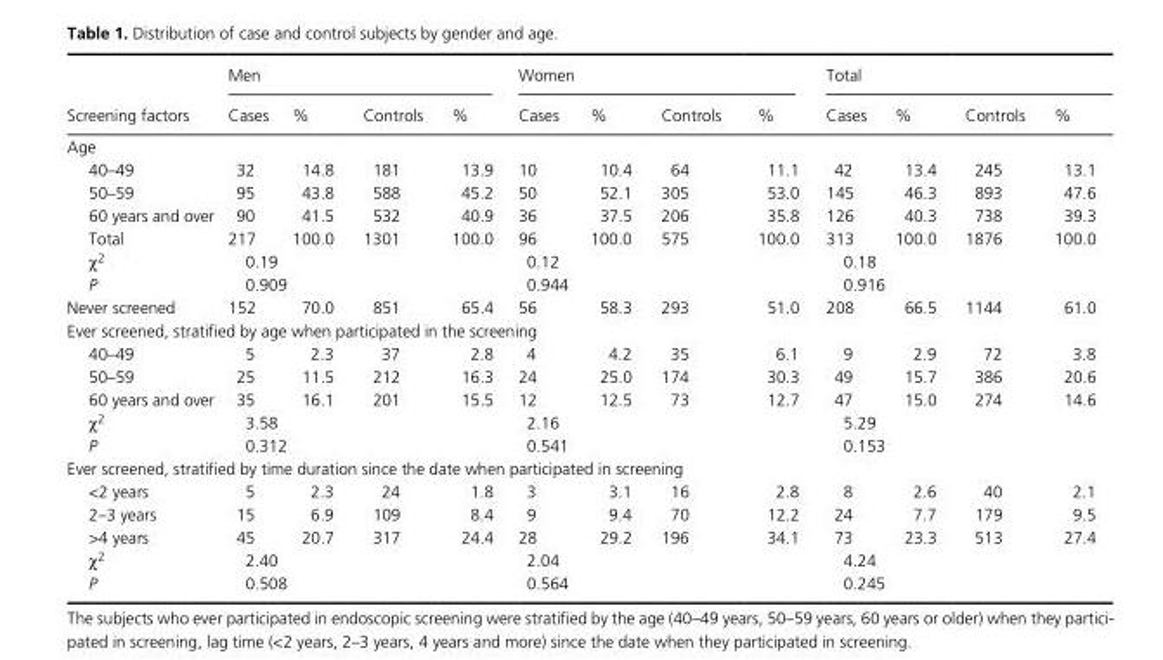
<table><thead><tr><td rowspan="2">Screening factors</td><td colspan="4">Men</td><td colspan="4">Women</td><td colspan="4">Total</td></tr><tr><td>Cases</td><td>%</td><td>Controls</td><td>%</td><td>Cases</td><td>%</td><td>Controls</td><td>%</td><td>Cases</td><td>%</td><td>Controls</td><td>%</td></tr></thead><tbody><tr><td colspan="13">Age</td></tr><tr><td>40–49</td><td>32</td><td>14.8</td><td>181</td><td>13.9</td><td>10</td><td>10.4</td><td>64</td><td>11.1</td><td>42</td><td>13.4</td><td>245</td><td>13.1</td></tr><tr><td>50–59</td><td>95</td><td>43.8</td><td>588</td><td>45.2</td><td>50</td><td>52.1</td><td>305</td><td>53.0</td><td>145</td><td>46.3</td><td>893</td><td>47.6</td></tr><tr><td>60 years and over</td><td>90</td><td>41.5</td><td>532</td><td>40.9</td><td>36</td><td>37.5</td><td>206</td><td>35.8</td><td>126</td><td>40.3</td><td>738</td><td>39.3</td></tr><tr><td>Total</td><td>217</td><td>100.0</td><td>1301</td><td>100.0</td><td>96</td><td>100.0</td><td>575</td><td>100.0</td><td>313</td><td>100.0</td><td>1876</td><td>100.0</td></tr><tr><td>χ<sup>2</sup></td><td colspan="4">0.19</td><td colspan="4">0.12</td><td colspan="4">0.18</td></tr><tr><td>P</td><td colspan="4">0.909</td><td colspan="4">0.944</td><td colspan="4">0.916</td></tr><tr><td>Never screened</td><td>152</td><td>70.0</td><td>851</td><td>65.4</td><td>56</td><td>58.3</td><td>293</td><td>51.0</td><td>208</td><td>66.5</td><td>1144</td><td>61.0</td></tr><tr><td colspan="13">Ever screened, stratified by age when participated in the screening</td></tr><tr><td>40–49</td><td>5</td><td>2.3</td><td>37</td><td>2.8</td><td>4</td><td>4.2</td><td>35</td><td>6.1</td><td>9</td><td>2.9</td><td>72</td><td>3.8</td></tr><tr><td>50–59</td><td>25</td><td>11.5</td><td>212</td><td>16.3</td><td>24</td><td>25.0</td><td>174</td><td>30.3</td><td>49</td><td>15.7</td><td>386</td><td>20.6</td></tr><tr><td>60 years and over</td><td>35</td><td>16.1</td><td>201</td><td>15.5</td><td>12</td><td>12.5</td><td>73</td><td>12.7</td><td>47</td><td>15.0</td><td>274</td><td>14.6</td></tr><tr><td>χ<sup>2</sup></td><td colspan="4">3.58</td><td colspan="4">2.16</td><td colspan="4">5.29</td></tr><tr><td>P</td><td colspan="4">0.312</td><td colspan="4">0.541</td><td colspan="4">0.153</td></tr><tr><td colspan="13">Ever screened, stratified by time duration since the date when participated in screening</td></tr><tr><td>&lt;2 years</td><td>5</td><td>2.3</td><td>24</td><td>1.8</td><td>3</td><td>3.1</td><td>16</td><td>2.8</td><td>8</td><td>2.6</td><td>40</td><td>2.1</td></tr><tr><td>2–3 years</td><td>15</td><td>6.9</td><td>109</td><td>8.4</td><td>9</td><td>9.4</td><td>70</td><td>12.2</td><td>24</td><td>7.7</td><td>179</td><td>9.5</td></tr><tr><td>&gt;4 years</td><td>45</td><td>20.7</td><td>317</td><td>24.4</td><td>28</td><td>29.2</td><td>196</td><td>34.1</td><td>73</td><td>23.3</td><td>513</td><td>27.4</td></tr><tr><td>χ<sup>2</sup></td><td colspan="4">2.40</td><td colspan="4">2.04</td><td colspan="4">4.24</td></tr><tr><td>P</td><td colspan="4">0.508</td><td colspan="4">0.564</td><td colspan="4">0.245</td></tr></tbody></table>